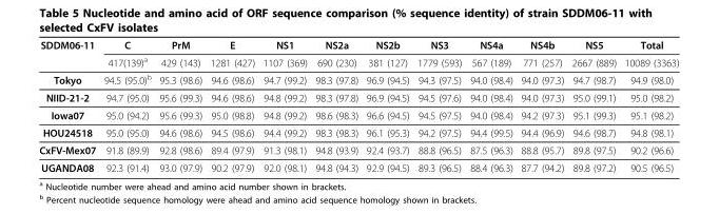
<table><thead><tr><td rowspan="2">SDDM06-11</td><td rowspan="2">C 417(139)<sup>a</sup></td><td rowspan="2">PrM 429 (143)</td><td rowspan="2">E 1281 (427)</td><td rowspan="2">NS1 1107 (369)</td><td rowspan="2">NS2a 690 (230)</td><td rowspan="2">NS2b 381 (127)</td><td rowspan="2">NS3 1779 (593)</td><td rowspan="2">NS4a 567 (189)</td><td rowspan="2">NS4b 771 (257)</td><td rowspan="2">NS5 2667 (889)</td><td rowspan="2">Total 10089 (3363)</td></tr><tr></tr></thead><tbody><tr><td>Tokyo</td><td>94.5 (95.0)<sup>b</sup></td><td>95.3 (98.6)</td><td>94.6 (98.6)</td><td>94.7 (99.2)</td><td>98.3 (97.8)</td><td>96.9 (94.5)</td><td>94.3 (97.5)</td><td>94.0 (98.4)</td><td>94.0 (97.3)</td><td>94.7 (98.7)</td><td>94.9 (98.0)</td></tr><tr><td>NIID-21-2</td><td>94.7 (95.0)</td><td>95.6 (99.3)</td><td>94.6 (98.6)</td><td>94.8 (99.2)</td><td>98.3 (97.8)</td><td>96.9 (94.5)</td><td>94.5 (97.6)</td><td>94.0 (98.4)</td><td>94.0 (97.3)</td><td>95.0 (99.1)</td><td>95.0 (98.2)</td></tr><tr><td>Iowa07</td><td>95.0 (94.2)</td><td>95.6 (99.3)</td><td>95.0 (98.8)</td><td>94.8 (99.2)</td><td>98.6 (98.3)</td><td>96.6 (94.5)</td><td>94.5 (97.5)</td><td>94.0 (98.4)</td><td>94.2 (97.3)</td><td>95.1 (99.3)</td><td>95.1 (98.2)</td></tr><tr><td>HOU24518</td><td>95.0 (95.0)</td><td>94.6 (98.6)</td><td>94.5 (98.6)</td><td>94.4 (99.2)</td><td>98.3 (98.3)</td><td>96.1 (95.3)</td><td>94.2 (97.5)</td><td>94.4 (99.5)</td><td>94.4 (96.9)</td><td>94.6 (98.7)</td><td>94.8 (98.1)</td></tr><tr><td>CxFV-Mex07</td><td>91.8 (89.9)</td><td>92.8 (98.6)</td><td>89.4 (97.9)</td><td>91.3 (98.1)</td><td>94.8 (93.9)</td><td>92.4 (93.7)</td><td>88.8 (96.5)</td><td>87.5 (96.3)</td><td>88.8 (95.7)</td><td>89.8 (97.5)</td><td>90.2 (96.6)</td></tr><tr><td>UGANDA08</td><td>92.3 (91.4)</td><td>93.0 (97.9)</td><td>90.2 (97.9)</td><td>92.0 (98.1)</td><td>94.8 (94.3)</td><td>92.9 (94.5)</td><td>89.3 (96.5)</td><td>88.4 (96.3)</td><td>87.7 (94.2)</td><td>89.8 (97.2)</td><td>90.5 (96.5)</td></tr></tbody></table>